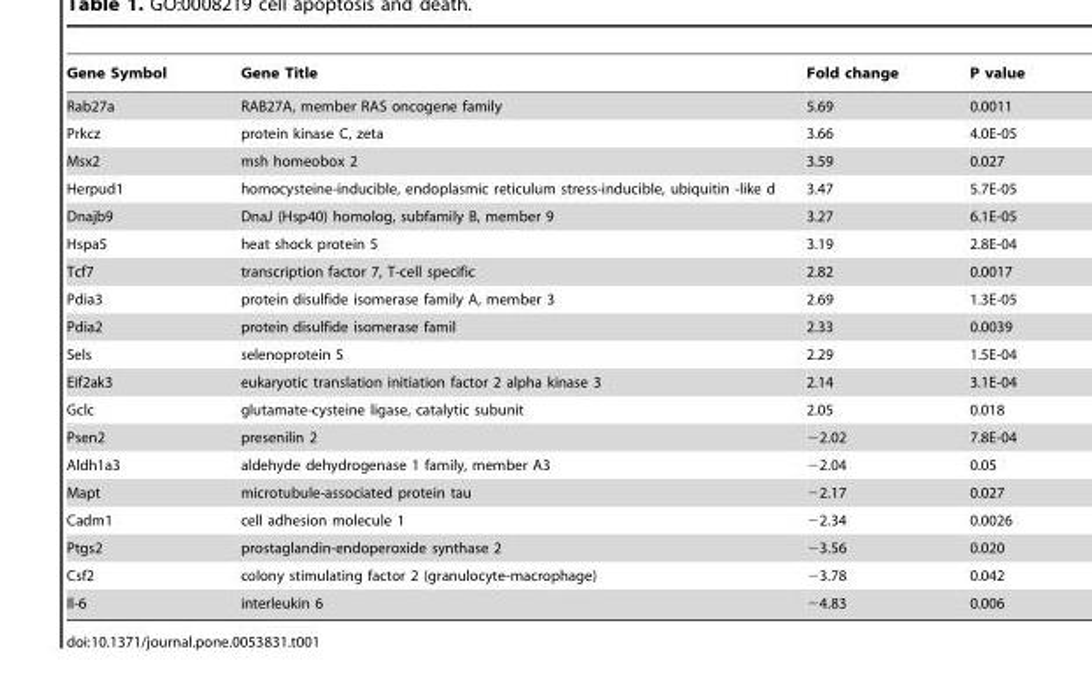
<table><thead><tr><td>Gene Symbol</td><td>Gene Title</td><td>Fold change</td><td>P value</td></tr></thead><tbody><tr><td>Rab27a</td><td>RAB27A, member RAS oncogene family</td><td>5.69</td><td>0.0011</td></tr><tr><td>Prkcz</td><td>protein kinase C, zeta</td><td>3.66</td><td>4.0E-05</td></tr><tr><td>Msx2</td><td>msh homeobox 2</td><td>3.59</td><td>0.027</td></tr><tr><td>Herpud1</td><td>homocysteine-inducible, endoplasmic reticulum stress-inducible, ubiquitin -like d</td><td>3.47</td><td>5.7E-05</td></tr><tr><td>Dnajb9</td><td>DnaJ (Hsp40) homolog, subfamily B, member 9</td><td>3.27</td><td>6.1E-05</td></tr><tr><td>Hspa5</td><td>heat shock protein 5</td><td>3.19</td><td>2.8E-04</td></tr><tr><td>Tcf7</td><td>transcription factor 7, T-cell specific</td><td>2.82</td><td>0.0017</td></tr><tr><td>Pdia3</td><td>protein disulfide isomerase family A, member 3</td><td>2.69</td><td>1.3E-05</td></tr><tr><td>Pdia2</td><td>protein disulfide isomerase famil</td><td>2.33</td><td>0.0039</td></tr><tr><td>Sels</td><td>selenoprotein S</td><td>2.29</td><td>1.5E-04</td></tr><tr><td>Eif2ak3</td><td>eukaryotic translation initiation factor 2 alpha kinase 3</td><td>2.14</td><td>3.1E-04</td></tr><tr><td>Gclc</td><td>glutamate-cysteine ligase, catalytic subunit</td><td>2.05</td><td>0.018</td></tr><tr><td>Psen2</td><td>presenilin 2</td><td>−2.02</td><td>7.8E-04</td></tr><tr><td>Aldh1a3</td><td>aldehyde dehydrogenase 1 family, member A3</td><td>−2.04</td><td>0.05</td></tr><tr><td>Mapt</td><td>microtubule-associated protein tau</td><td>−2.17</td><td>0.027</td></tr><tr><td>Cadm1</td><td>cell adhesion molecule 1</td><td>−2.34</td><td>0.0026</td></tr><tr><td>Ptgs2</td><td>prostaglandin-endoperoxide synthase 2</td><td>−3.56</td><td>0.020</td></tr><tr><td>Csf2</td><td>colony stimulating factor 2 (granulocyte-macrophage)</td><td>−3.78</td><td>0.042</td></tr><tr><td>Il-6</td><td>interleukin 6</td><td>−4.83</td><td>0.006</td></tr></tbody></table>